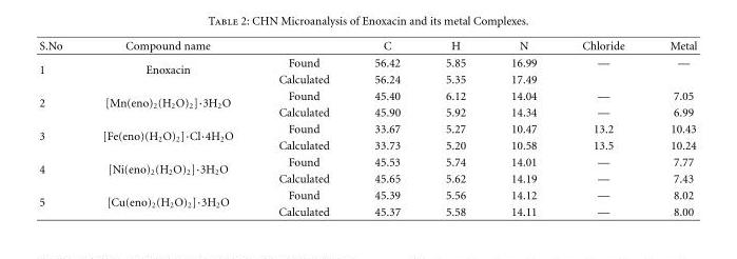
<table><thead><tr><td>S.No</td><td>Compound name</td><td></td><td>C</td><td>H</td><td>N</td><td>Chloride</td><td>Metal</td></tr></thead><tbody><tr><td rowspan="2">1</td><td rowspan="2">Enoxacin</td><td>Found</td><td>56.42</td><td>5.85</td><td>16.99</td><td>—</td><td>—</td></tr><tr><td>Calculated</td><td>56.24</td><td>5.35</td><td>17.49</td><td></td><td></td></tr><tr><td rowspan="2">2</td><td rowspan="2">[Mn(eno)<sub>2</sub>(H<sub>2</sub>O)<sub>2</sub>]·3H<sub>2</sub>O</td><td>Found</td><td>45.40</td><td>6.12</td><td>14.04</td><td>—</td><td>7.05</td></tr><tr><td>Calculated</td><td>45.90</td><td>5.92</td><td>14.34</td><td>—</td><td>6.99</td></tr><tr><td rowspan="2">3</td><td rowspan="2">[Fe(eno)(H<sub>2</sub>O)<sub>2</sub>]·Cl·4H<sub>2</sub>O</td><td>Found</td><td>33.67</td><td>5.27</td><td>10.47</td><td>13.2</td><td>10.43</td></tr><tr><td>Calculated</td><td>33.73</td><td>5.20</td><td>10.58</td><td>13.5</td><td>10.24</td></tr><tr><td rowspan="2">4</td><td rowspan="2">[Ni(eno)<sub>2</sub>(H<sub>2</sub>O)<sub>2</sub>]·3H<sub>2</sub>O</td><td>Found</td><td>45.53</td><td>5.74</td><td>14.01</td><td>—</td><td>7.77</td></tr><tr><td>Calculated</td><td>45.65</td><td>5.62</td><td>14.19</td><td>—</td><td>7.43</td></tr><tr><td rowspan="2">5</td><td rowspan="2">[Cu(eno)<sub>2</sub>(H<sub>2</sub>O)<sub>2</sub>]·3H<sub>2</sub>O</td><td>Found</td><td>45.39</td><td>5.56</td><td>14.12</td><td>—</td><td>8.02</td></tr><tr><td>Calculated</td><td>45.37</td><td>5.58</td><td>14.11</td><td>—</td><td>8.00</td></tr></tbody></table>